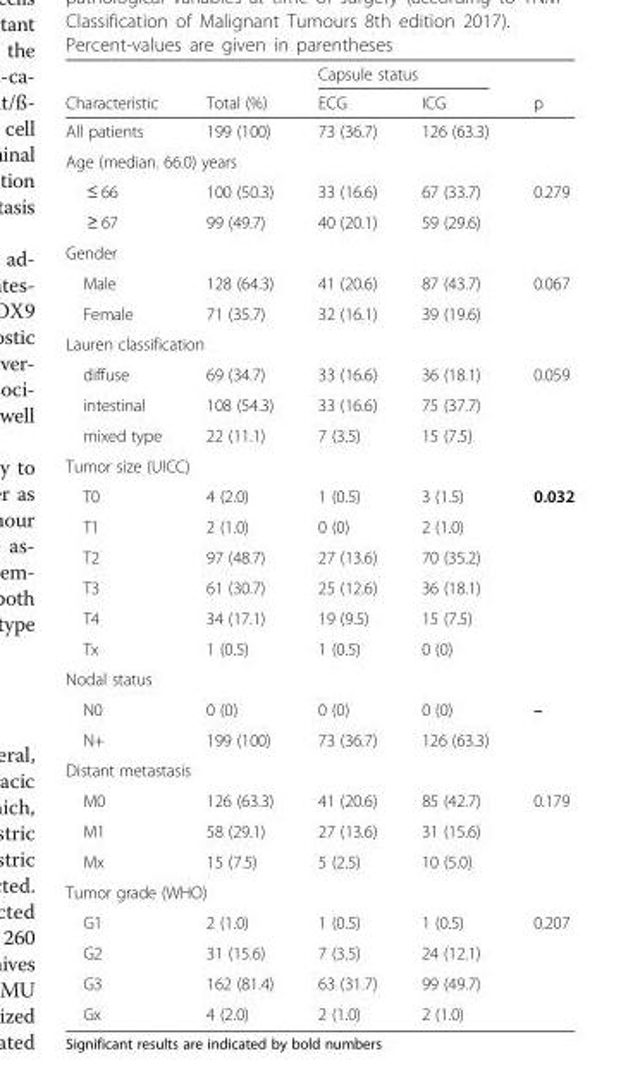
<table><thead><tr><td rowspan="2">Characteristic</td><td rowspan="2">Total (%)</td><td colspan="2">Capsule status</td><td rowspan="2">p</td></tr><tr><td>ECG</td><td>ICG</td></tr></thead><tbody><tr><td>All patients</td><td>199 (100)</td><td>73 (36.7)</td><td>126 (63.3)</td><td></td></tr><tr><td colspan="5">Age (median. 66.0) years</td></tr><tr><td>≤ 66</td><td>100 (50.3)</td><td>33 (16.6)</td><td>67 (33.7)</td><td>0.279</td></tr><tr><td>≥ 67</td><td>99 (49.7)</td><td>40 (20.1)</td><td>59 (29.6)</td><td></td></tr><tr><td colspan="5">Gender</td></tr><tr><td>Male</td><td>128 (64.3)</td><td>41 (20.6)</td><td>87 (43.7)</td><td>0.067</td></tr><tr><td>Female</td><td>71 (35.7)</td><td>32 (16.1)</td><td>39 (19.6)</td><td></td></tr><tr><td colspan="5">Lauren classification</td></tr><tr><td>diffuse</td><td>69 (34.7)</td><td>33 (16.6)</td><td>36 (18.1)</td><td>0.059</td></tr><tr><td>intestinal</td><td>108 (54.3)</td><td>33 (16.6)</td><td>75 (37.7)</td><td></td></tr><tr><td>mixed type</td><td>22 (11.1)</td><td>7 (3.5)</td><td>15 (7.5)</td><td></td></tr><tr><td colspan="5">Tumor size (UICC)</td></tr><tr><td>T0</td><td>4 (2.0)</td><td>1 (0.5)</td><td>3 (1.5)</td><td>0.032</td></tr><tr><td>T1</td><td>2 (1.0)</td><td>0 (0)</td><td>2 (1.0)</td><td></td></tr><tr><td>T2</td><td>97 (48.7)</td><td>27 (13.6)</td><td>70 (35.2)</td><td></td></tr><tr><td>T3</td><td>61 (30.7)</td><td>25 (12.6)</td><td>36 (18.1)</td><td></td></tr><tr><td>T4</td><td>34 (17.1)</td><td>19 (9.5)</td><td>15 (7.5)</td><td></td></tr><tr><td>Tx</td><td>1 (0.5)</td><td>1 (0.5)</td><td>0 (0)</td><td></td></tr><tr><td colspan="5">Nodal status</td></tr><tr><td>N0</td><td>0 (0)</td><td>0 (0)</td><td>0 (0)</td><td>–</td></tr><tr><td>N+</td><td>199 (100)</td><td>73 (36.7)</td><td>126 (63.3)</td><td></td></tr><tr><td colspan="5">Distant metastasis</td></tr><tr><td>M0</td><td>126 (63.3)</td><td>41 (20.6)</td><td>85 (42.7)</td><td>0.179</td></tr><tr><td>M1</td><td>58 (29.1)</td><td>27 (13.6)</td><td>31 (15.6)</td><td></td></tr><tr><td>Mx</td><td>15 (7.5)</td><td>5 (2.5)</td><td>10 (5.0)</td><td></td></tr><tr><td colspan="5">Tumor grade (WHO)</td></tr><tr><td>G1</td><td>2 (1.0)</td><td>1 (0.5)</td><td>1 (0.5)</td><td>0.207</td></tr><tr><td>G2</td><td>31 (15.6)</td><td>7 (3.5)</td><td>24 (12.1)</td><td></td></tr><tr><td>G3</td><td>162 (81.4)</td><td>63 (31.7)</td><td>99 (49.7)</td><td></td></tr><tr><td>Gx</td><td>4 (2.0)</td><td>2 (1.0)</td><td>2 (1.0)</td><td></td></tr></tbody></table>